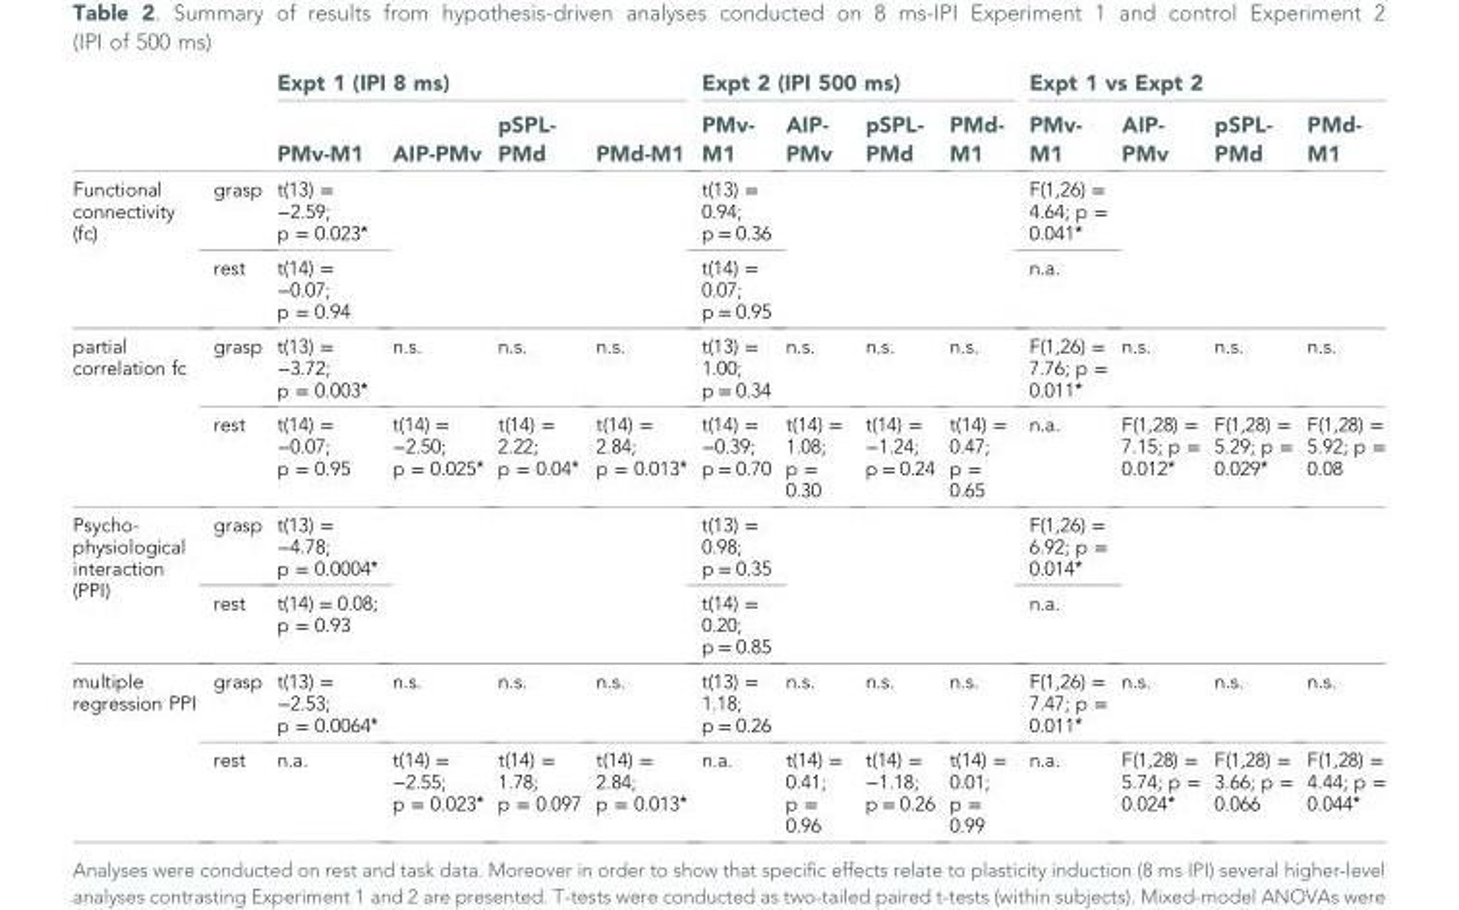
<table><thead><tr><td rowspan="2"></td><td rowspan="2"></td><td colspan="4">Expt 1 (IPI 8 ms)</td><td colspan="4">Expt 2 (IPI 500 ms)</td><td colspan="4">Expt 1 vs Expt 2</td></tr><tr><td>PMv-M1</td><td>AIP-PMv</td><td>pSPL- PMd</td><td>PMd-M1</td><td>PMv- M1</td><td>AIP- PMv</td><td>pSPL- PMd</td><td>PMd- M1</td><td>PMv- M1</td><td>AIP- PMv</td><td>pSPL- PMd</td><td>PMd- M1</td></tr></thead><tbody><tr><td rowspan="2">Functional connectivity (fc)</td><td>grasp</td><td>t(13) = −2.59; p = 0.023*</td><td rowspan="2" colspan="3"></td><td>t(13) = 0.94; p = 0.36</td><td rowspan="2" colspan="3"></td><td>F(1,26) = 4.64; p = 0.041*</td><td rowspan="2" colspan="3"></td></tr><tr><td>rest</td><td>t(14) = −0.07; p = 0.94</td><td>t(14) = 0.07; p = 0.95</td><td>n.a.</td></tr><tr><td rowspan="2">partial correlation fc</td><td>grasp</td><td>t(13) = −3.72; p = 0.003*</td><td>n.s.</td><td>n.s.</td><td>n.s.</td><td>t(13) = 1.00; p = 0.34</td><td>n.s.</td><td>n.s.</td><td>n.s.</td><td>F(1,26) = 7.76; p = 0.011*</td><td>n.s.</td><td>n.s.</td><td>n.s.</td></tr><tr><td>rest</td><td>t(14) = −0.07; p = 0.95</td><td>t(14) = −2.50; p = 0.025*</td><td>t(14) = 2.22; p = 0.04*</td><td>t(14) = 2.84; p = 0.013*</td><td>t(14) = −0.39; p = 0.70</td><td>t(14) = 1.08; p = 0.30</td><td>t(14) = −1.24; p = 0.24</td><td>t(14) = 0.47; p = 0.65</td><td>n.a.</td><td>F(1,28) = 7.15; p = 0.012*</td><td>F(1,28) = 5.29; p = 0.029*</td><td>F(1,28) = 5.92; p = 0.08</td></tr><tr><td rowspan="2">Psycho- physiological interaction (PPI)</td><td>grasp</td><td>t(13) = −4.78; p = 0.0004*</td><td rowspan="2" colspan="3"></td><td>t(13) = 0.98; p = 0.35</td><td rowspan="2" colspan="3"></td><td>F(1,26) = 6.92; p = 0.014*</td><td rowspan="2" colspan="3"></td></tr><tr><td>rest</td><td>t(14) = 0.08; p = 0.93</td><td>t(14) = 0.20; p = 0.85</td><td>n.a.</td></tr><tr><td rowspan="2">multiple regression PPI</td><td>grasp</td><td>t(13) = −2.53; p = 0.0064*</td><td>n.s.</td><td>n.s.</td><td>n.s.</td><td>t(13) = 1.18; p = 0.26</td><td>n.s.</td><td>n.s.</td><td>n.s.</td><td>F(1,26) = 7.47; p = 0.011*</td><td>n.s.</td><td>n.s.</td><td>n.s.</td></tr><tr><td>rest</td><td>n.a.</td><td>t(14) = −2.55; p = 0.023*</td><td>t(14) = 1.78; p = 0.097</td><td>t(14) = 2.84; p = 0.013*</td><td>n.a.</td><td>t(14) = 0.41; p = 0.96</td><td>t(14) = −1.18; p = 0.26</td><td>t(14) = 0.01; p = 0.99</td><td>n.a.</td><td>F(1,28) = 5.74; p = 0.024*</td><td>F(1,28) = 3.66; p = 0.066</td><td>F(1,28) = 4.44; p = 0.044*</td></tr></tbody></table>